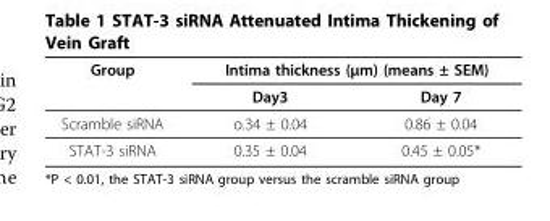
<table><thead><tr><td rowspan="2">Group</td><td colspan="2">Intima thickness (μm) (means ± SEM)</td></tr><tr><td>Day3</td><td>Day 7</td></tr></thead><tbody><tr><td>Scramble siRNA</td><td>o.34 ± 0.04</td><td>0.86 ± 0.04</td></tr><tr><td>STAT-3 siRNA</td><td>0.35 ± 0.04</td><td>0.45 ± 0.05*</td></tr></tbody></table>